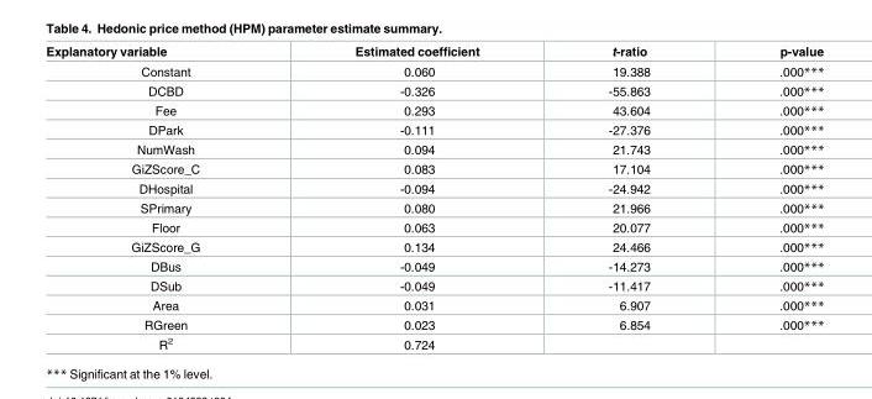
<table><thead><tr><td>Explanatory variable</td><td>Estimated coefficient</td><td>t-ratio</td><td>p-value</td></tr></thead><tbody><tr><td>Constant</td><td>0.060</td><td>19.388</td><td>.000***</td></tr><tr><td>DCBD</td><td>-0.326</td><td>-55.863</td><td>.000***</td></tr><tr><td>Fee</td><td>0.293</td><td>43.604</td><td>.000***</td></tr><tr><td>DPark</td><td>-0.111</td><td>-27.376</td><td>.000***</td></tr><tr><td>NumWash</td><td>0.094</td><td>21.743</td><td>.000***</td></tr><tr><td>GiZScore_C</td><td>0.083</td><td>17.104</td><td>.000***</td></tr><tr><td>DHospital</td><td>-0.094</td><td>-24.942</td><td>.000***</td></tr><tr><td>SPrimary</td><td>0.080</td><td>21.966</td><td>.000***</td></tr><tr><td>Floor</td><td>0.063</td><td>20.077</td><td>.000***</td></tr><tr><td>GiZScore_G</td><td>0.134</td><td>24.466</td><td>.000***</td></tr><tr><td>DBus</td><td>-0.049</td><td>-14.273</td><td>.000***</td></tr><tr><td>DSub</td><td>-0.049</td><td>-11.417</td><td>.000***</td></tr><tr><td>Area</td><td>0.031</td><td>6.907</td><td>.000***</td></tr><tr><td>RGreen</td><td>0.023</td><td>6.854</td><td>.000***</td></tr><tr><td>R<sup>2</sup></td><td>0.724</td><td></td><td></td></tr></tbody></table>